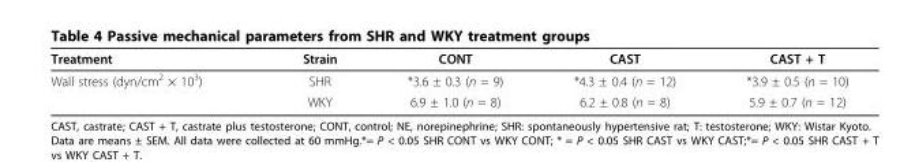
<table><thead><tr><td>Treatment</td><td>Strain</td><td>CONT</td><td>CAST</td><td>CAST + T</td></tr></thead><tbody><tr><td rowspan="2">Wall stress (dyn/cm<sup>2</sup> × 10<sup>3</sup>)</td><td>SHR</td><td>*3.6 ± 0.3 (n = 9)</td><td>*4.3 ± 0.4 (n = 12)</td><td>*3.9 ± 0.5 (n = 10)</td></tr><tr><td>WKY</td><td>6.9 ± 1.0 (n = 8)</td><td>6.2 ± 0.8 (n = 8)</td><td>5.9 ± 0.7 (n = 12)</td></tr></tbody></table>